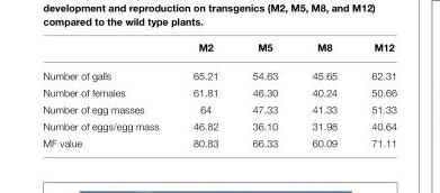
<table><thead><tr><td></td><td>M2</td><td>M5</td><td>M8</td><td>M12</td></tr></thead><tbody><tr><td>Number of galls</td><td>65.21</td><td>54.63</td><td>45.65</td><td>62.31</td></tr><tr><td>Number of females</td><td>61.81</td><td>46.30</td><td>40.24</td><td>50.66</td></tr><tr><td>Number of egg masses</td><td>64</td><td>47.33</td><td>41.33</td><td>51.33</td></tr><tr><td>Number of eggs/egg mass</td><td>46.82</td><td>36.10</td><td>31.98</td><td>40.64</td></tr><tr><td>MF value</td><td>80.83</td><td>66.33</td><td>60.09</td><td>71.11</td></tr></tbody></table>